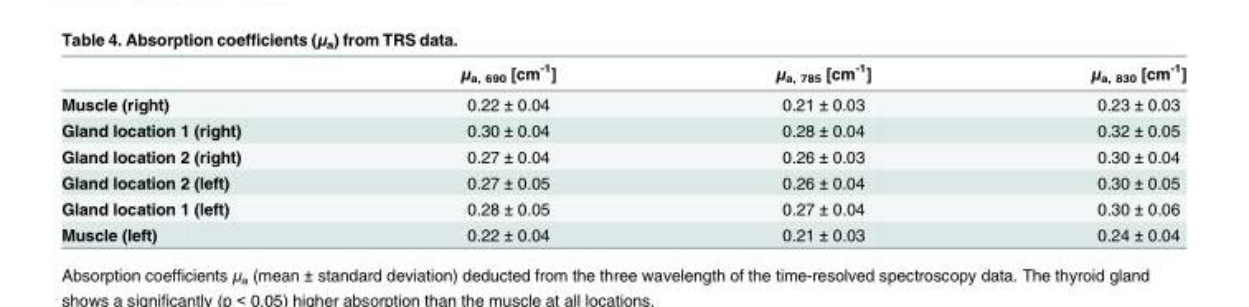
<table><thead><tr><td></td><td>μ<sub>a, 690</sub> [cm<sup>-1</sup>]</td><td>μ<sub>a, 785</sub> [cm<sup>-1</sup>]</td><td>μ<sub>a, 830</sub> [cm<sup>-1</sup>]</td></tr></thead><tbody><tr><td>Muscle (right)</td><td>0.22 ± 0.04</td><td>0.21 ± 0.03</td><td>0.23 ± 0.03</td></tr><tr><td>Gland location 1 (right)</td><td>0.30 ± 0.04</td><td>0.28 ± 0.04</td><td>0.32 ± 0.05</td></tr><tr><td>Gland location 2 (right)</td><td>0.27 ± 0.04</td><td>0.26 ± 0.03</td><td>0.30 ± 0.04</td></tr><tr><td>Gland location 2 (left)</td><td>0.27 ± 0.05</td><td>0.26 ± 0.04</td><td>0.30 ± 0.05</td></tr><tr><td>Gland location 1 (left)</td><td>0.28 ± 0.05</td><td>0.27 ± 0.04</td><td>0.30 ± 0.06</td></tr><tr><td>Muscle (left)</td><td>0.22 ± 0.04</td><td>0.21 ± 0.03</td><td>0.24 ± 0.04</td></tr></tbody></table>